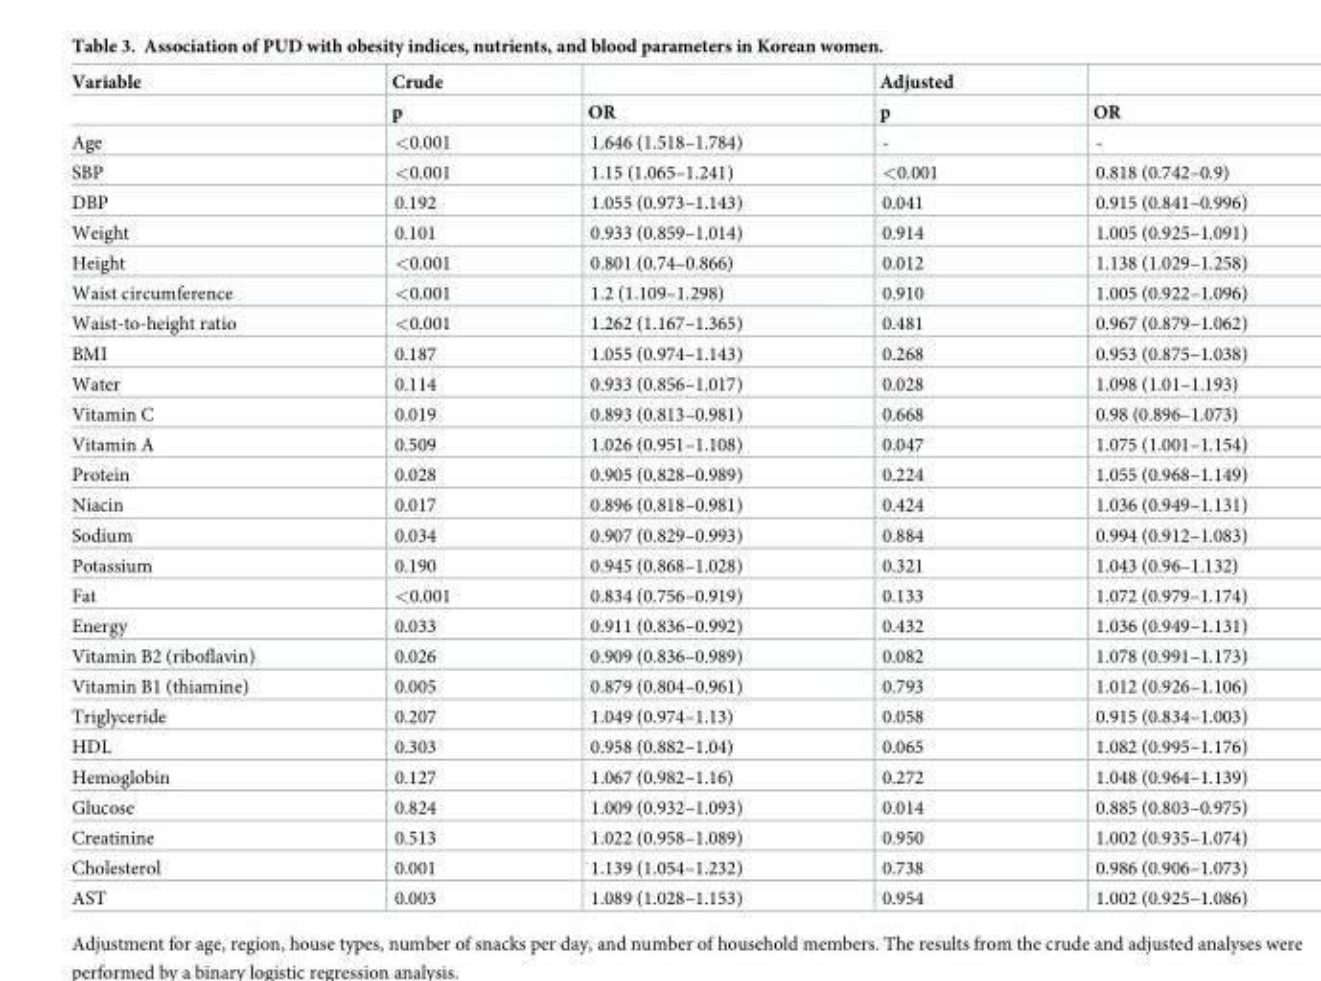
<table><thead><tr><td rowspan="2">Variable</td><td rowspan="2">Crude p</td><td rowspan="2">OR</td><td rowspan="2">Adjusted p</td><td rowspan="2">OR</td></tr><tr></tr></thead><tbody><tr><td>Age</td><td>&lt;0.001</td><td>1.646 (1.518–1.784)</td><td>-</td><td>-</td></tr><tr><td>SBP</td><td>&lt;0.001</td><td>1.15 (1.065–1.241)</td><td>&lt;0.001</td><td>0.818 (0.742–0.9)</td></tr><tr><td>DBP</td><td>0.192</td><td>1.055 (0.973–1.143)</td><td>0.041</td><td>0.915 (0.841–0.996)</td></tr><tr><td>Weight</td><td>0.101</td><td>0.933 (0.859–1.014)</td><td>0.914</td><td>1.005 (0.925–1.091)</td></tr><tr><td>Height</td><td>&lt;0.001</td><td>0.801 (0.74–0.866)</td><td>0.012</td><td>1.138 (1.029–1.258)</td></tr><tr><td>Waist circumference</td><td>&lt;0.001</td><td>1.2 (1.109–1.298)</td><td>0.910</td><td>1.005 (0.922–1.096)</td></tr><tr><td>Waist-to-height ratio</td><td>&lt;0.001</td><td>1.262 (1.167–1.365)</td><td>0.481</td><td>0.967 (0.879–1.062)</td></tr><tr><td>BMI</td><td>0.187</td><td>1.055 (0.974–1.143)</td><td>0.268</td><td>0.953 (0.875–1.038)</td></tr><tr><td>Water</td><td>0.114</td><td>0.933 (0.856–1.017)</td><td>0.028</td><td>1.098 (1.01–1.193)</td></tr><tr><td>Vitamin C</td><td>0.019</td><td>0.893 (0.813–0.981)</td><td>0.668</td><td>0.98 (0.896–1.073)</td></tr><tr><td>Vitamin A</td><td>0.509</td><td>1.026 (0.951–1.108)</td><td>0.047</td><td>1.075 (1.001–1.154)</td></tr><tr><td>Protein</td><td>0.028</td><td>0.905 (0.828–0.989)</td><td>0.224</td><td>1.055 (0.968–1.149)</td></tr><tr><td>Niacin</td><td>0.017</td><td>0.896 (0.818–0.981)</td><td>0.424</td><td>1.036 (0.949–1.131)</td></tr><tr><td>Sodium</td><td>0.034</td><td>0.907 (0.829–0.993)</td><td>0.884</td><td>0.994 (0.912–1.083)</td></tr><tr><td>Potassium</td><td>0.190</td><td>0.945 (0.868–1.028)</td><td>0.321</td><td>1.043 (0.96–1.132)</td></tr><tr><td>Fat</td><td>&lt;0.001</td><td>0.834 (0.756–0.919)</td><td>0.133</td><td>1.072 (0.979–1.174)</td></tr><tr><td>Energy</td><td>0.033</td><td>0.911 (0.836–0.992)</td><td>0.432</td><td>1.036 (0.949–1.131)</td></tr><tr><td>Vitamin B2 (riboflavin)</td><td>0.026</td><td>0.909 (0.836–0.989)</td><td>0.082</td><td>1.078 (0.991–1.173)</td></tr><tr><td>Vitamin B1 (thiamine)</td><td>0.005</td><td>0.879 (0.804–0.961)</td><td>0.793</td><td>1.012 (0.926–1.106)</td></tr><tr><td>Triglyceride</td><td>0.207</td><td>1.049 (0.974–1.13)</td><td>0.058</td><td>0.915 (0.834–1.003)</td></tr><tr><td>HDL</td><td>0.303</td><td>0.958 (0.882–1.04)</td><td>0.065</td><td>1.082 (0.995–1.176)</td></tr><tr><td>Hemoglobin</td><td>0.127</td><td>1.067 (0.982–1.16)</td><td>0.272</td><td>1.048 (0.964–1.139)</td></tr><tr><td>Glucose</td><td>0.824</td><td>1.009 (0.932–1.093)</td><td>0.014</td><td>0.885 (0.803–0.975)</td></tr><tr><td>Creatinine</td><td>0.513</td><td>1.022 (0.958–1.089)</td><td>0.950</td><td>1.002 (0.935–1.074)</td></tr><tr><td>Cholesterol</td><td>0.001</td><td>1.139 (1.054–1.232)</td><td>0.738</td><td>0.986 (0.906–1.073)</td></tr><tr><td>AST</td><td>0.003</td><td>1.089 (1.028–1.153)</td><td>0.954</td><td>1.002 (0.925–1.086)</td></tr></tbody></table>